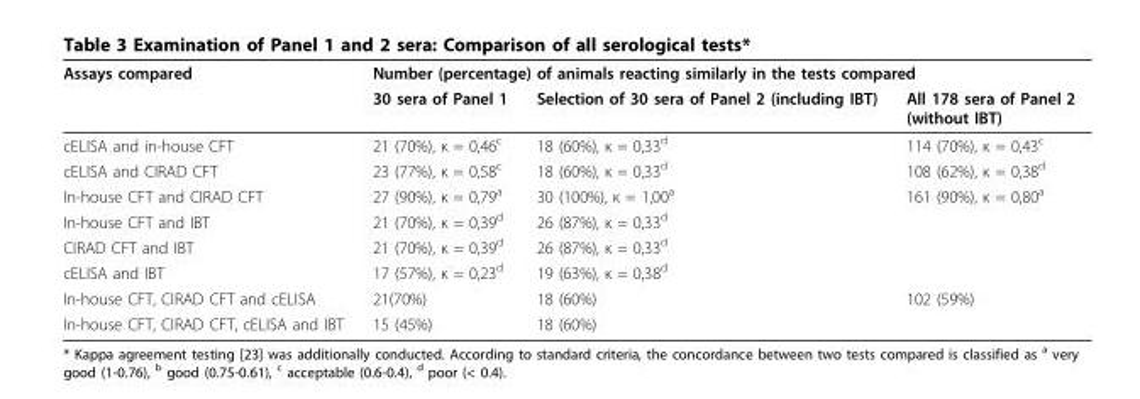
<table><thead><tr><td rowspan="2">Assays compared</td><td colspan="3">Number (percentage) of animals reacting similarly in the tests compared</td></tr><tr><td>30 sera of Panel 1</td><td>Selection of 30 sera of Panel 2 (including IBT)</td><td>All 178 sera of Panel 2 (without IBT)</td></tr></thead><tbody><tr><td>cELISA and in-house CFT</td><td>21 (70%), ĸ = 0,46<sup>c</sup></td><td>18 (60%), ĸ = 0,33<sup>d</sup></td><td>114 (70%), ĸ = 0,43<sup>c</sup></td></tr><tr><td>cELISA and CIRAD CFT</td><td>23 (77%), ĸ = 0,58<sup>c</sup></td><td>18 (60%), ĸ = 0,33<sup>d</sup></td><td>108 (62%), ĸ = 0,38<sup>d</sup></td></tr><tr><td>In-house CFT and CIRAD CFT</td><td>27 (90%), ĸ = 0,79<sup>a</sup></td><td>30 (100%), ĸ = 1,00<sup>a</sup></td><td>161 (90%), ĸ = 0,80<sup>a</sup></td></tr><tr><td>In-house CFT and IBT</td><td>21 (70%), ĸ = 0,39<sup>d</sup></td><td>26 (87%), ĸ = 0,33<sup>d</sup></td><td></td></tr><tr><td>CIRAD CFT and IBT</td><td>21 (70%), ĸ = 0,39<sup>d</sup></td><td>26 (87%), ĸ = 0,33<sup>d</sup></td><td></td></tr><tr><td>cELISA and IBT</td><td>17 (57%), ĸ = 0,23<sup>d</sup></td><td>19 (63%), ĸ = 0,38<sup>d</sup></td><td></td></tr><tr><td>In-house CFT, CIRAD CFT and cELISA</td><td>21(70%)</td><td>18 (60%)</td><td>102 (59%)</td></tr><tr><td>In-house CFT, CIRAD CFT, cELISA and IBT</td><td>15 (45%)</td><td>18 (60%)</td><td></td></tr></tbody></table>